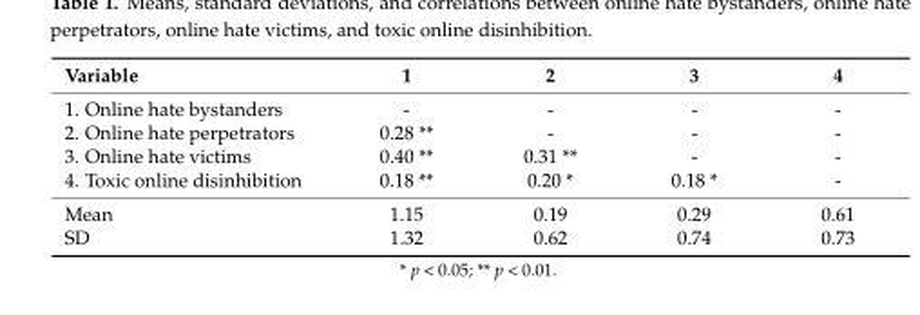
<table><thead><tr><td>Variable</td><td>1</td><td>2</td><td>3</td><td>4</td></tr></thead><tbody><tr><td>1. Online hate bystanders</td><td>-</td><td>-</td><td>-</td><td>-</td></tr><tr><td>2. Online hate perpetrators</td><td>0.28 **</td><td>-</td><td>-</td><td>-</td></tr><tr><td>3. Online hate victims</td><td>0.40 **</td><td>0.31 **</td><td>-</td><td>-</td></tr><tr><td>4. Toxic online disinhibition</td><td>0.18 **</td><td>0.20 *</td><td>0.18 *</td><td>-</td></tr><tr><td>Mean</td><td>1.15</td><td>0.19</td><td>0.29</td><td>0.61</td></tr><tr><td>SD</td><td>1.32</td><td>0.62</td><td>0.74</td><td>0.73</td></tr></tbody></table>